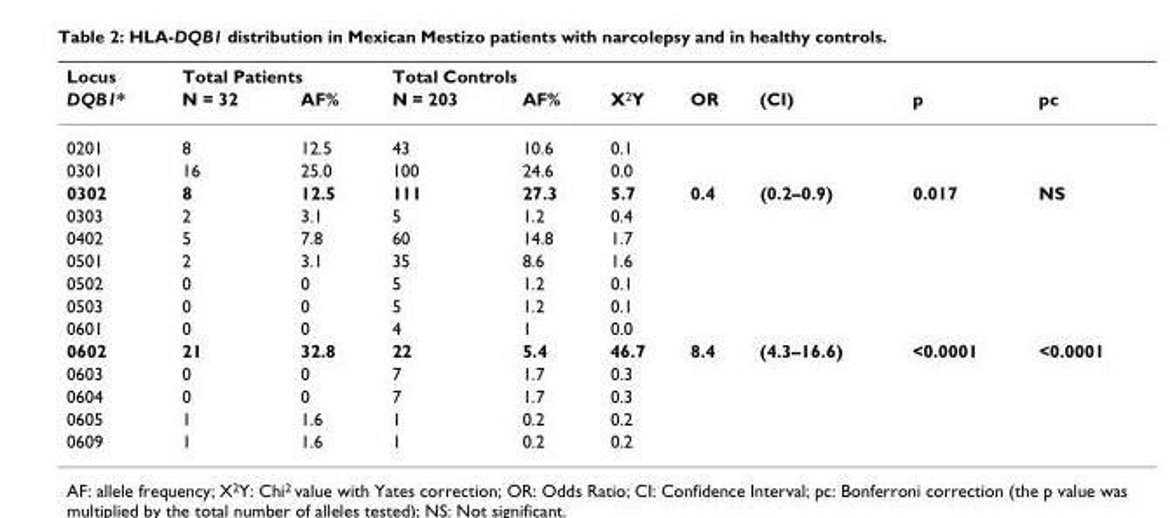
<table><thead><tr><td rowspan="2">Locus DQB1*</td><td colspan="2">Total Patients</td><td colspan="2">Total Controls</td><td rowspan="2">X<sup>2</sup>Y</td><td rowspan="2">OR</td><td rowspan="2">(CI)</td><td rowspan="2">p</td><td rowspan="2">pc</td></tr><tr><td>N = 32</td><td>AF%</td><td>N = 203</td><td>AF%</td></tr></thead><tbody><tr><td>0201</td><td>8</td><td>12.5</td><td>43</td><td>10.6</td><td>0.1</td><td></td><td></td><td></td><td></td></tr><tr><td>0301</td><td>16</td><td>25.0</td><td>100</td><td>24.6</td><td>0.0</td><td></td><td></td><td></td><td></td></tr><tr><td>0302</td><td>8</td><td>12.5</td><td>111</td><td>27.3</td><td>5.7</td><td>0.4</td><td>(0.2–0.9)</td><td>0.017</td><td>NS</td></tr><tr><td>0303</td><td>2</td><td>3.1</td><td>5</td><td>1.2</td><td>0.4</td><td></td><td></td><td></td><td></td></tr><tr><td>0402</td><td>5</td><td>7.8</td><td>60</td><td>14.8</td><td>1.7</td><td></td><td></td><td></td><td></td></tr><tr><td>0501</td><td>2</td><td>3.1</td><td>35</td><td>8.6</td><td>1.6</td><td></td><td></td><td></td><td></td></tr><tr><td>0502</td><td>0</td><td>0</td><td>5</td><td>1.2</td><td>0.1</td><td></td><td></td><td></td><td></td></tr><tr><td>0503</td><td>0</td><td>0</td><td>5</td><td>1.2</td><td>0.1</td><td></td><td></td><td></td><td></td></tr><tr><td>0601</td><td>0</td><td>0</td><td>4</td><td>1</td><td>0.0</td><td></td><td></td><td></td><td></td></tr><tr><td>0602</td><td>21</td><td>32.8</td><td>22</td><td>5.4</td><td>46.7</td><td>8.4</td><td>(4.3–16.6)</td><td>&lt;0.0001</td><td>&lt;0.0001</td></tr><tr><td>0603</td><td>0</td><td>0</td><td>7</td><td>1.7</td><td>0.3</td><td></td><td></td><td></td><td></td></tr><tr><td>0604</td><td>0</td><td>0</td><td>7</td><td>1.7</td><td>0.3</td><td></td><td></td><td></td><td></td></tr><tr><td>0605</td><td>1</td><td>1.6</td><td>1</td><td>0.2</td><td>0.2</td><td></td><td></td><td></td><td></td></tr><tr><td>0609</td><td>1</td><td>1.6</td><td>1</td><td>0.2</td><td>0.2</td><td></td><td></td><td></td><td></td></tr></tbody></table>